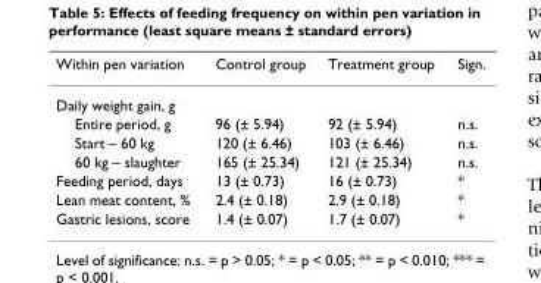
<table><thead><tr><td>Within pen variation</td><td>Control group</td><td>Treatment group</td><td>Sign.</td></tr></thead><tbody><tr><td colspan="4">Daily weight gain, g</td></tr><tr><td>Entire period, g</td><td>96 (± 5.94)</td><td>92 (± 5.94)</td><td>n.s.</td></tr><tr><td>Start – 60 kg</td><td>120 (± 6.46)</td><td>103 (± 6.46)</td><td>n.s.</td></tr><tr><td>60 kg – slaughter</td><td>165 (± 25.34)</td><td>121 (± 25.34)</td><td>n.s.</td></tr><tr><td>Feeding period, days</td><td>13 (± 0.73)</td><td>16 (± 0.73)</td><td>*</td></tr><tr><td>Lean meat content, %</td><td>2.4 (± 0.18)</td><td>2.9 (± 0.18)</td><td>*</td></tr><tr><td>Gastric lesions, score</td><td>1.4 (± 0.07)</td><td>1.7 (± 0.07)</td><td>*</td></tr></tbody></table>